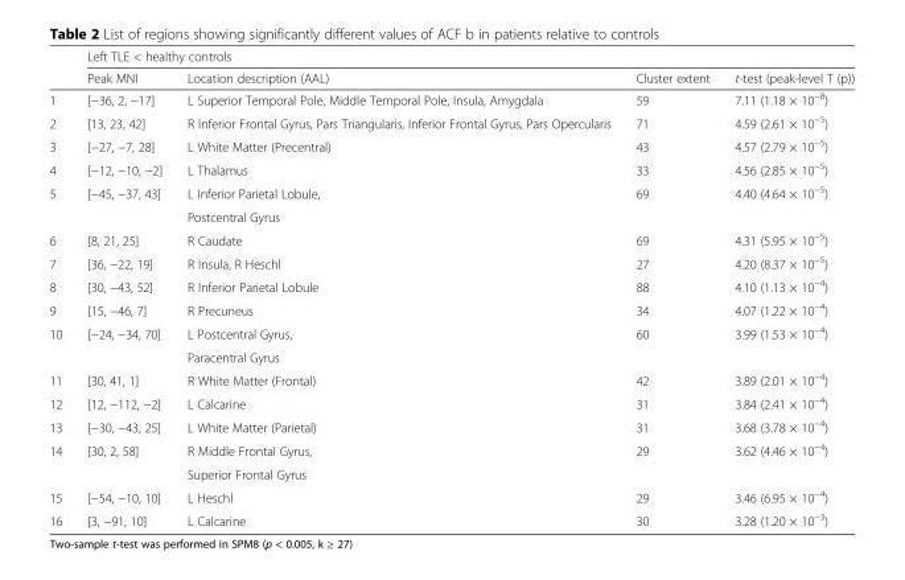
<table><thead><tr><td rowspan="2"></td><td colspan="4">Left TLE &lt; healthy controls</td></tr><tr><td>Peak MNI</td><td>Location description (AAL)</td><td>Cluster extent</td><td>t-test (peak-level T (p))</td></tr></thead><tbody><tr><td>1</td><td>[−36, 2, −17]</td><td>L Superior Temporal Pole, Middle Temporal Pole, Insula, Amygdala</td><td>59</td><td>7.11 (1.18 × 10<sup>−8</sup>)</td></tr><tr><td>2</td><td>[13, 23, 42]</td><td>R Inferior Frontal Gyrus, Pars Triangularis, Inferior Frontal Gyrus, Pars Opercularis</td><td>71</td><td>4.59 (2.61 × 10<sup>−5</sup>)</td></tr><tr><td>3</td><td>[−27, −7, 28]</td><td>L White Matter (Precentral)</td><td>43</td><td>4.57 (2.79 × 10<sup>−5</sup>)</td></tr><tr><td>4</td><td>[−12, −10, −2]</td><td>L Thalamus</td><td>33</td><td>4.56 (2.85 × 10<sup>−5</sup>)</td></tr><tr><td rowspan="2">5</td><td rowspan="2">[−45, −37, 43]</td><td>L Inferior Parietal Lobule,</td><td rowspan="2">69</td><td rowspan="2">4.40 (4.64 × 10<sup>−5</sup>)</td></tr><tr><td>Postcentral Gyrus</td></tr><tr><td>6</td><td>[8, 21, 25]</td><td>R Caudate</td><td>69</td><td>4.31 (5.95 × 10<sup>−5</sup>)</td></tr><tr><td>7</td><td>[36, −22, 19]</td><td>R Insula, R Heschl</td><td>27</td><td>4.20 (8.37 × 10<sup>−5</sup>)</td></tr><tr><td>8</td><td>[30, −43, 52]</td><td>R Inferior Parietal Lobule</td><td>88</td><td>4.10 (1.13 × 10<sup>−4</sup>)</td></tr><tr><td>9</td><td>[15, −46, 7]</td><td>R Precuneus</td><td>34</td><td>4.07 (1.22 × 10<sup>−4</sup>)</td></tr><tr><td rowspan="2">10</td><td rowspan="2">[−24, −34, 70]</td><td>L Postcentral Gyrus,</td><td rowspan="2">60</td><td rowspan="2">3.99 (1.53 × 10<sup>−4</sup>)</td></tr><tr><td>Paracentral Gyrus</td></tr><tr><td>11</td><td>[30, 41, 1]</td><td>R White Matter (Frontal)</td><td>42</td><td>3.89 (2.01 × 10<sup>−4</sup>)</td></tr><tr><td>12</td><td>[12, −112, −2]</td><td>L Calcarine</td><td>31</td><td>3.84 (2.41 × 10<sup>−4</sup>)</td></tr><tr><td>13</td><td>[−30, −43, 25]</td><td>L White Matter (Parietal)</td><td>31</td><td>3.68 (3.78 × 10<sup>−4</sup>)</td></tr><tr><td rowspan="2">14</td><td rowspan="2">[30, 2, 58]</td><td>R Middle Frontal Gyrus,</td><td rowspan="2">29</td><td rowspan="2">3.62 (4.46 × 10<sup>−4</sup>)</td></tr><tr><td>Superior Frontal Gyrus</td></tr><tr><td>15</td><td>[−54, −10, 10]</td><td>L Heschl</td><td>29</td><td>3.46 (6.95 × 10<sup>−4</sup>)</td></tr><tr><td>16</td><td>[3, −91, 10]</td><td>L Calcarine</td><td>30</td><td>3.28 (1.20 × 10<sup>−3</sup>)</td></tr></tbody></table>